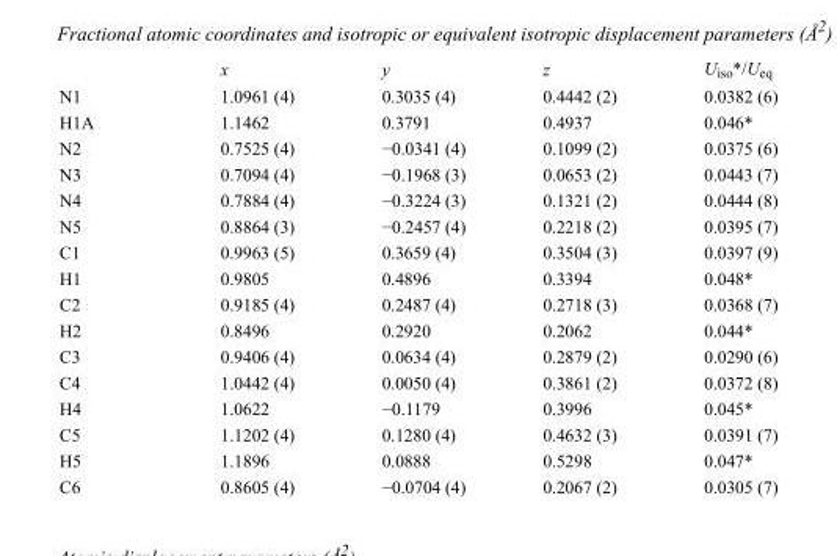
<table><thead><tr><td></td><td>x</td><td>y</td><td>z</td><td>U<sub>iso</sub>*/U<sub>eq</sub></td></tr></thead><tbody><tr><td>N1</td><td>1.0961 (4)</td><td>0.3035 (4)</td><td>0.4442 (2)</td><td>0.0382 (6)</td></tr><tr><td>H1A</td><td>1.1462</td><td>0.3791</td><td>0.4937</td><td>0.046*</td></tr><tr><td>N2</td><td>0.7525 (4)</td><td>−0.0341 (4)</td><td>0.1099 (2)</td><td>0.0375 (6)</td></tr><tr><td>N3</td><td>0.7094 (4)</td><td>−0.1968 (3)</td><td>0.0653 (2)</td><td>0.0443 (7)</td></tr><tr><td>N4</td><td>0.7884 (4)</td><td>−0.3224 (3)</td><td>0.1321 (2)</td><td>0.0444 (8)</td></tr><tr><td>N5</td><td>0.8864 (3)</td><td>−0.2457 (4)</td><td>0.2218 (2)</td><td>0.0395 (7)</td></tr><tr><td>C1</td><td>0.9963 (5)</td><td>0.3659 (4)</td><td>0.3504 (3)</td><td>0.0397 (9)</td></tr><tr><td>H1</td><td>0.9805</td><td>0.4896</td><td>0.3394</td><td>0.048*</td></tr><tr><td>C2</td><td>0.9185 (4)</td><td>0.2487 (4)</td><td>0.2718 (3)</td><td>0.0368 (7)</td></tr><tr><td>H2</td><td>0.8496</td><td>0.2920</td><td>0.2062</td><td>0.044*</td></tr><tr><td>C3</td><td>0.9406 (4)</td><td>0.0634 (4)</td><td>0.2879 (2)</td><td>0.0290 (6)</td></tr><tr><td>C4</td><td>1.0442 (4)</td><td>0.0050 (4)</td><td>0.3861 (2)</td><td>0.0372 (8)</td></tr><tr><td>H4</td><td>1.0622</td><td>−0.1179</td><td>0.3996</td><td>0.045*</td></tr><tr><td>C5</td><td>1.1202 (4)</td><td>0.1280 (4)</td><td>0.4632 (3)</td><td>0.0391 (7)</td></tr><tr><td>H5</td><td>1.1896</td><td>0.0888</td><td>0.5298</td><td>0.047*</td></tr><tr><td>C6</td><td>0.8605 (4)</td><td>−0.0704 (4)</td><td>0.2067 (2)</td><td>0.0305 (7)</td></tr></tbody></table>